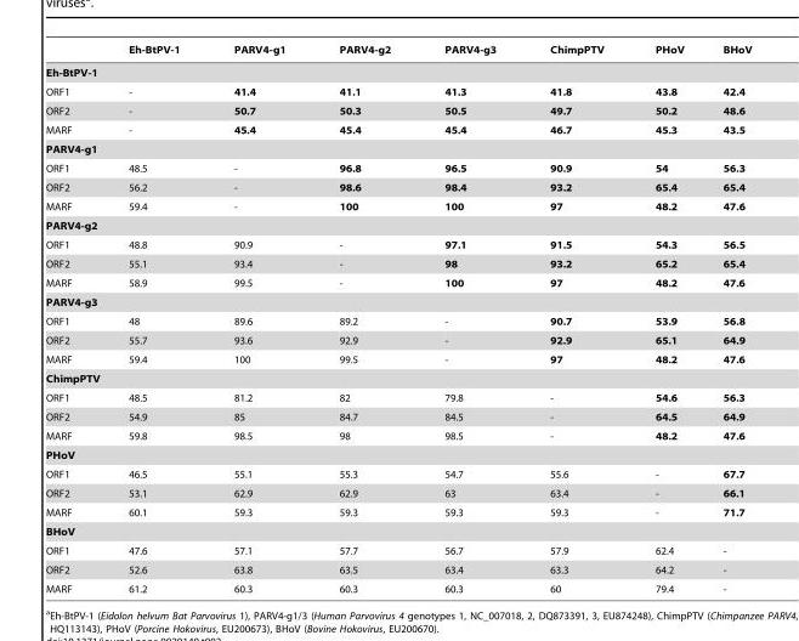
<table><thead><tr><td></td><td>Eh-BtPV-1</td><td>PARV4-g1</td><td>PARV4-g2</td><td>PARV4-g3</td><td>ChimpPTV</td><td>PHoV</td><td>BHoV</td></tr></thead><tbody><tr><td colspan="8">Eh-BtPV-1</td></tr><tr><td>ORF1</td><td>-</td><td>41.4</td><td>41.1</td><td>41.3</td><td>41.8</td><td>43.8</td><td>42.4</td></tr><tr><td>ORF2</td><td>-</td><td>50.7</td><td>50.3</td><td>50.5</td><td>49.7</td><td>50.2</td><td>48.6</td></tr><tr><td>MARF</td><td>-</td><td>45.4</td><td>45.4</td><td>45.4</td><td>46.7</td><td>45.3</td><td>43.5</td></tr><tr><td colspan="8">PARV4-g1</td></tr><tr><td>ORF1</td><td>48.5</td><td>-</td><td>96.8</td><td>96.5</td><td>90.9</td><td>54</td><td>56.3</td></tr><tr><td>ORF2</td><td>56.2</td><td>-</td><td>98.6</td><td>98.4</td><td>93.2</td><td>65.4</td><td>65.4</td></tr><tr><td>MARF</td><td>59.4</td><td>-</td><td>100</td><td>100</td><td>97</td><td>48.2</td><td>47.6</td></tr><tr><td colspan="8">PARV4-g2</td></tr><tr><td>ORF1</td><td>48.8</td><td>90.9</td><td>-</td><td>97.1</td><td>91.5</td><td>54.3</td><td>56.5</td></tr><tr><td>ORF2</td><td>55.1</td><td>93.4</td><td>-</td><td>98</td><td>93.2</td><td>65.2</td><td>65.4</td></tr><tr><td>MARF</td><td>58.9</td><td>99.5</td><td>-</td><td>100</td><td>97</td><td>48.2</td><td>47.6</td></tr><tr><td colspan="8">PARV4-g3</td></tr><tr><td>ORF1</td><td>48</td><td>89.6</td><td>89.2</td><td>-</td><td>90.7</td><td>53.9</td><td>56.8</td></tr><tr><td>ORF2</td><td>55.7</td><td>93.6</td><td>92.9</td><td>-</td><td>92.9</td><td>65.1</td><td>64.9</td></tr><tr><td>MARF</td><td>59.4</td><td>100</td><td>99.5</td><td>-</td><td>97</td><td>48.2</td><td>47.6</td></tr><tr><td colspan="8">ChimpPTV</td></tr><tr><td>ORF1</td><td>48.5</td><td>81.2</td><td>82</td><td>79.8</td><td>-</td><td>54.6</td><td>56.3</td></tr><tr><td>ORF2</td><td>54.9</td><td>85</td><td>84.7</td><td>84.5</td><td>-</td><td>64.5</td><td>64.9</td></tr><tr><td>MARF</td><td>59.8</td><td>98.5</td><td>98</td><td>98.5</td><td>-</td><td>48.2</td><td>47.6</td></tr><tr><td colspan="8">PHoV</td></tr><tr><td>ORF1</td><td>46.5</td><td>55.1</td><td>55.3</td><td>54.7</td><td>55.6</td><td>-</td><td>67.7</td></tr><tr><td>ORF2</td><td>53.1</td><td>62.9</td><td>62.9</td><td>63</td><td>63.4</td><td>-</td><td>66.1</td></tr><tr><td>MARF</td><td>60.1</td><td>59.3</td><td>59.3</td><td>59.3</td><td>59.3</td><td>-</td><td>71.7</td></tr><tr><td colspan="8">BHoV</td></tr><tr><td>ORF1</td><td>47.6</td><td>57.1</td><td>57.7</td><td>56.7</td><td>57.9</td><td>62.4</td><td>-</td></tr><tr><td>ORF2</td><td>52.6</td><td>63.8</td><td>63.5</td><td>63.4</td><td>63.3</td><td>64.2</td><td>-</td></tr><tr><td>MARF</td><td>61.2</td><td>60.3</td><td>60.3</td><td>60.3</td><td>60</td><td>79.4</td><td>-</td></tr></tbody></table>